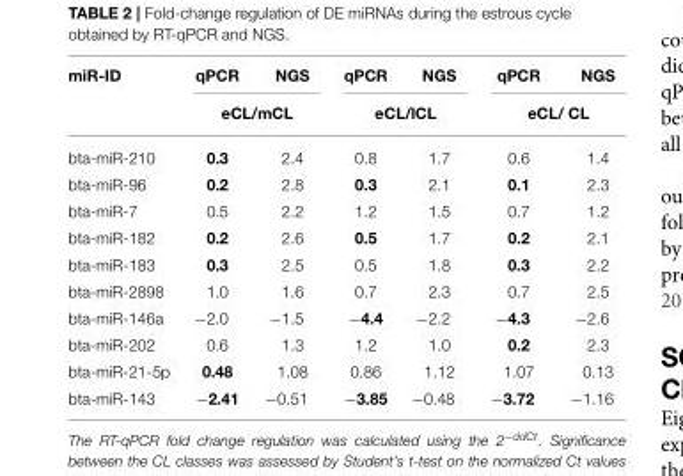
<table><thead><tr><td rowspan="2">miR-ID</td><td>qPCR</td><td>NGS</td><td>qPCR</td><td>NGS</td><td>qPCR</td><td>NGS</td></tr><tr><td colspan="2">eCL/mCL</td><td colspan="2">eCL/lCL</td><td colspan="2">eCL/ CL</td></tr></thead><tbody><tr><td>bta-miR-210</td><td>0.3</td><td>2.4</td><td>0.8</td><td>1.7</td><td>0.6</td><td>1.4</td></tr><tr><td>bta-miR-96</td><td>0.2</td><td>2.8</td><td>0.3</td><td>2.1</td><td>0.1</td><td>2.3</td></tr><tr><td>bta-miR-7</td><td>0.5</td><td>2.2</td><td>1.2</td><td>1.5</td><td>0.7</td><td>1.2</td></tr><tr><td>bta-miR-182</td><td>0.2</td><td>2.6</td><td>0.5</td><td>1.7</td><td>0.2</td><td>2.1</td></tr><tr><td>bta-miR-183</td><td>0.3</td><td>2.5</td><td>0.5</td><td>1.8</td><td>0.3</td><td>2.2</td></tr><tr><td>bta-miR-2898</td><td>1.0</td><td>1.6</td><td>0.7</td><td>2.3</td><td>0.7</td><td>2.5</td></tr><tr><td>bta-miR-146a</td><td>−2.0</td><td>−1.5</td><td>−4.4</td><td>−2.2</td><td>−4.3</td><td>−2.6</td></tr><tr><td>bta-miR-202</td><td>0.6</td><td>1.3</td><td>1.2</td><td>1.0</td><td>0.2</td><td>2.3</td></tr><tr><td>bta-miR-21-5p</td><td>0.48</td><td>1.08</td><td>0.86</td><td>1.12</td><td>1.07</td><td>0.13</td></tr><tr><td>bta-miR-143</td><td>−2.41</td><td>−0.51</td><td>−3.85</td><td>−0.48</td><td>−3.72</td><td>−1.16</td></tr></tbody></table>